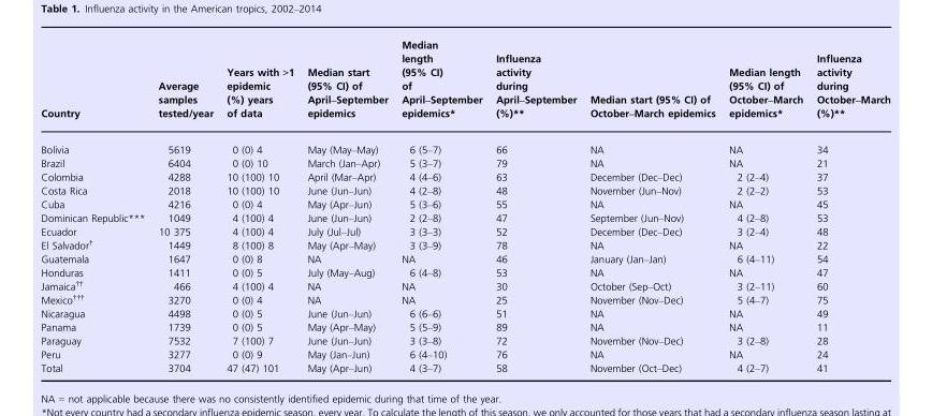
<table><thead><tr><td>Country</td><td>Average samples tested/year</td><td>Years with &gt;1 epidemic (%) years of data</td><td>Median start (95% CI) of April–September epidemics</td><td>Median length (95% CI) of April–September epidemics*</td><td>Influenza activity during April–September (%)**</td><td>Median start (95% CI) of October–March epidemics</td><td>Median length (95% CI) of October–March epidemics*</td><td>Influenza activity during October–March (%)**</td></tr></thead><tbody><tr><td>Bolivia</td><td>5619</td><td>0 (0) 4</td><td>May (May–May)</td><td>6 (5–7)</td><td>66</td><td>NA</td><td>NA</td><td>34</td></tr><tr><td>Brazil</td><td>6404</td><td>0 (0) 10</td><td>March (Jan–Apr)</td><td>5 (3–7)</td><td>79</td><td>NA</td><td>NA</td><td>21</td></tr><tr><td>Colombia</td><td>4288</td><td>10 (100) 10</td><td>April (Mar–Apr)</td><td>4 (4–6)</td><td>63</td><td>December (Dec–Dec)</td><td>2 (2–4)</td><td>37</td></tr><tr><td>Costa Rica</td><td>2018</td><td>10 (100) 10</td><td>June (Jun–Jun)</td><td>4 (2–8)</td><td>48</td><td>November (Jun–Nov)</td><td>2 (2–2)</td><td>53</td></tr><tr><td>Cuba</td><td>4216</td><td>0 (0) 4</td><td>May (Apr–Jun)</td><td>5 (3–6)</td><td>55</td><td>NA</td><td>NA</td><td>45</td></tr><tr><td>Dominican Republic***</td><td>1049</td><td>4 (100) 4</td><td>June (Jun–Jun)</td><td>2 (2–8)</td><td>47</td><td>September (Jun–Nov)</td><td>4 (2–8)</td><td>53</td></tr><tr><td>Ecuador</td><td>10 375</td><td>4 (100) 4</td><td>July (Jul–Jul)</td><td>3 (3–3)</td><td>52</td><td>December (Dec–Dec)</td><td>3 (2–4)</td><td>48</td></tr><tr><td>El Salvador†</td><td>1449</td><td>8 (100) 8</td><td>May (Apr–May)</td><td>3 (3–9)</td><td>78</td><td>NA</td><td>NA</td><td>22</td></tr><tr><td>Guatemala</td><td>1647</td><td>0 (0) 8</td><td>NA</td><td>NA</td><td>46</td><td>January (Jan–Jan)</td><td>6 (4–11)</td><td>54</td></tr><tr><td>Honduras</td><td>1411</td><td>0 (0) 5</td><td>July (May–Aug)</td><td>6 (4–8)</td><td>53</td><td>NA</td><td>NA</td><td>47</td></tr><tr><td>Jamaica††</td><td>466</td><td>4 (100) 4</td><td>NA</td><td>NA</td><td>30</td><td>October (Sep–Oct)</td><td>3 (2–11)</td><td>60</td></tr><tr><td>Mexico†††</td><td>3270</td><td>0 (0) 4</td><td>NA</td><td>NA</td><td>25</td><td>November (Nov–Dec)</td><td>5 (4–7)</td><td>75</td></tr><tr><td>Nicaragua</td><td>4498</td><td>0 (0) 5</td><td>June (Jun–Jun)</td><td>6 (6–6)</td><td>51</td><td>NA</td><td>NA</td><td>49</td></tr><tr><td>Panama</td><td>1739</td><td>0 (0) 5</td><td>May (Apr–May)</td><td>5 (5–9)</td><td>89</td><td>NA</td><td>NA</td><td>11</td></tr><tr><td>Paraguay</td><td>7532</td><td>7 (100) 7</td><td>June (Jun–Jun)</td><td>3 (3–8)</td><td>72</td><td>November (Nov–Dec)</td><td>3 (2–8)</td><td>28</td></tr><tr><td>Peru</td><td>3277</td><td>0 (0) 9</td><td>May (Jan–Jun)</td><td>6 (4–10)</td><td>76</td><td>NA</td><td>NA</td><td>24</td></tr><tr><td>Total</td><td>3704</td><td>47 (47) 101</td><td>May (Apr–Jun)</td><td>4 (3–7)</td><td>58</td><td>November (Oct–Dec)</td><td>4 (2–7)</td><td>41</td></tr></tbody></table>